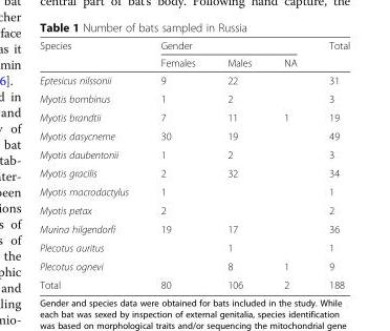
<table><thead><tr><td rowspan="2">Species</td><td colspan="3">Gender</td><td rowspan="2">Total</td></tr><tr><td>Females</td><td>Males</td><td>NA</td></tr></thead><tbody><tr><td>Eptesicus nilssonii</td><td>9</td><td>22</td><td></td><td>31</td></tr><tr><td>Myotis bombinus</td><td>1</td><td>2</td><td></td><td>3</td></tr><tr><td>Myotis brandtii</td><td>7</td><td>11</td><td>1</td><td>19</td></tr><tr><td>Myotis dasycneme</td><td>30</td><td>19</td><td></td><td>49</td></tr><tr><td>Myotis daubentonii</td><td>1</td><td>2</td><td></td><td>3</td></tr><tr><td>Myotis gracilis</td><td>2</td><td>32</td><td></td><td>34</td></tr><tr><td>Myotis macrodactylus</td><td>1</td><td></td><td></td><td>1</td></tr><tr><td>Myotis petax</td><td>2</td><td></td><td></td><td>2</td></tr><tr><td>Murina hilgendorfi</td><td>19</td><td>17</td><td></td><td>36</td></tr><tr><td>Plecotus auritus</td><td></td><td>1</td><td></td><td>1</td></tr><tr><td>Plecotus ognevi</td><td></td><td>8</td><td>1</td><td>9</td></tr><tr><td>Total</td><td>80</td><td>106</td><td>2</td><td>188</td></tr></tbody></table>